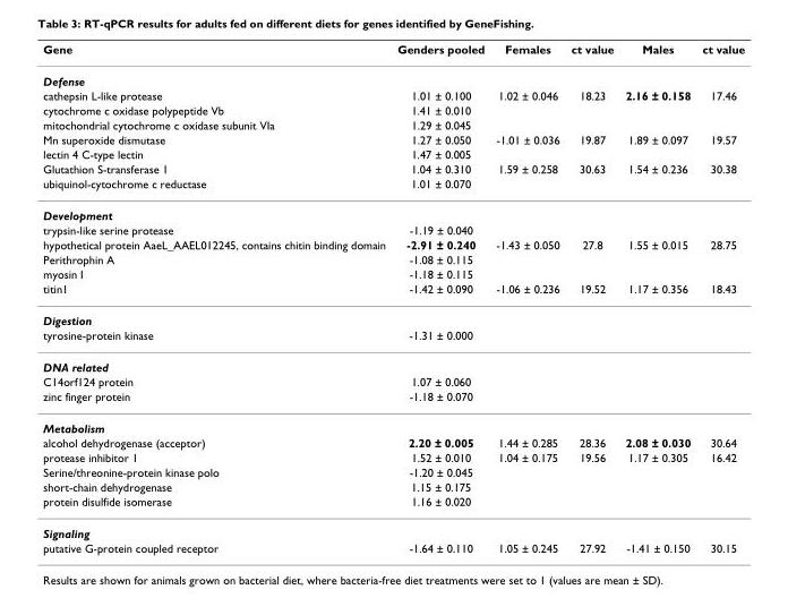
<table><thead><tr><td>Gene</td><td>Genders pooled</td><td>Females</td><td>ct value</td><td>Males</td><td>ct value</td></tr></thead><tbody><tr><td colspan="6">Defense</td></tr><tr><td>cathepsin L-like protease</td><td>1.01 ± 0.100</td><td>1.02 ± 0.046</td><td>18.23</td><td>2.16 ± 0.158</td><td>17.46</td></tr><tr><td>cytochrome c oxidase polypeptide Vb</td><td>1.41 ± 0.010</td><td></td><td></td><td></td><td></td></tr><tr><td>mitochondrial cytochrome c oxidase subunit VIa</td><td>1.29 ± 0.045</td><td></td><td></td><td></td><td></td></tr><tr><td>Mn superoxide dismutase</td><td>1.27 ± 0.050</td><td>-1.01 ± 0.036</td><td>19.87</td><td>1.89 ± 0.097</td><td>19.57</td></tr><tr><td>lectin 4 C-type lectin</td><td>1.47 ± 0.005</td><td></td><td></td><td></td><td></td></tr><tr><td>Glutathion S-transferase 1</td><td>1.04 ± 0.310</td><td>1.59 ± 0.258</td><td>30.63</td><td>1.54 ± 0.236</td><td>30.38</td></tr><tr><td>ubiquinol-cytochrome c reductase</td><td>1.01 ± 0.070</td><td></td><td></td><td></td><td></td></tr><tr><td colspan="6">Development</td></tr><tr><td>trypsin-like serine protease</td><td>-1.19 ± 0.040</td><td></td><td></td><td></td><td></td></tr><tr><td>hypothetical protein AaeL_AAEL012245, contains chitin binding domain</td><td>-2.91 ± 0.240</td><td>-1.43 ± 0.050</td><td>27.8</td><td>1.55 ± 0.015</td><td>28.75</td></tr><tr><td>Perithrophin A</td><td>-1.08 ± 0.115</td><td></td><td></td><td></td><td></td></tr><tr><td>myosin I</td><td>-1.18 ± 0.115</td><td></td><td></td><td></td><td></td></tr><tr><td>titin1</td><td>-1.42 ± 0.090</td><td>-1.06 ± 0.236</td><td>19.52</td><td>1.17 ± 0.356</td><td>18.43</td></tr><tr><td colspan="6">Digestion</td></tr><tr><td>tyrosine-protein kinase</td><td>-1.31 ± 0.000</td><td></td><td></td><td></td><td></td></tr><tr><td colspan="6">DNA related</td></tr><tr><td>C14orf124 protein</td><td>1.07 ± 0.060</td><td></td><td></td><td></td><td></td></tr><tr><td>zinc finger protein</td><td>-1.18 ± 0.070</td><td></td><td></td><td></td><td></td></tr><tr><td colspan="6">Metabolism</td></tr><tr><td>alcohol dehydrogenase (acceptor)</td><td>2.20 ± 0.005</td><td>1.44 ± 0.285</td><td>28.36</td><td>2.08 ± 0.030</td><td>30.64</td></tr><tr><td>protease inhibitor 1</td><td>1.52 ± 0.010</td><td>1.04 ± 0.175</td><td>19.56</td><td>1.17 ± 0.305</td><td>16.42</td></tr><tr><td>Serine/threonine-protein kinase polo</td><td>-1.20 ± 0.045</td><td></td><td></td><td></td><td></td></tr><tr><td>short-chain dehydrogenase</td><td>1.15 ± 0.175</td><td></td><td></td><td></td><td></td></tr><tr><td>protein disulfide isomerase</td><td>1.16 ± 0.020</td><td></td><td></td><td></td><td></td></tr><tr><td colspan="6">Signaling</td></tr><tr><td>putative G-protein coupled receptor</td><td>-1.64 ± 0.110</td><td>1.05 ± 0.245</td><td>27.92</td><td>-1.41 ± 0.150</td><td>30.15</td></tr></tbody></table>